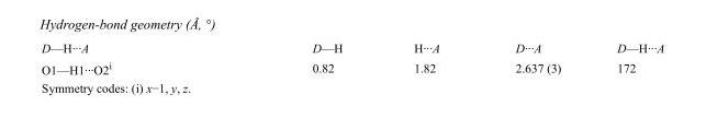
<table><tbody><tr><td>D—H···A</td><td>D—H</td><td>H···A</td><td>D···A</td><td>D—H···A</td></tr><tr><td>O1—H1···O2<sup>i</sup></td><td>0.82</td><td>1.82</td><td>2.637 (3)</td><td>172</td></tr></tbody></table>